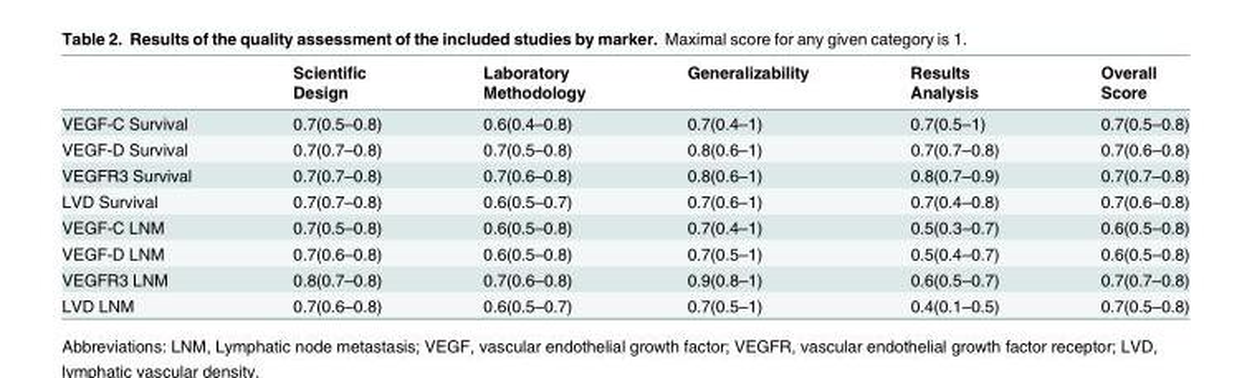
<table><thead><tr><td rowspan="2"></td><td rowspan="2">Scientific Design</td><td rowspan="2">Laboratory Methodology</td><td rowspan="2">Generalizability</td><td rowspan="2">Results Analysis</td><td rowspan="2">Overall Score</td></tr><tr></tr></thead><tbody><tr><td>VEGF-C Survival</td><td>0.7(0.5–0.8)</td><td>0.6(0.4–0.8)</td><td>0.7(0.4–1)</td><td>0.7(0.5–1)</td><td>0.7(0.5–0.8)</td></tr><tr><td>VEGF-D Survival</td><td>0.7(0.7–0.8)</td><td>0.7(0.5–0.8)</td><td>0.8(0.6–1)</td><td>0.7(0.7–0.8)</td><td>0.7(0.6–0.8)</td></tr><tr><td>VEGFR3 Survival</td><td>0.7(0.7–0.8)</td><td>0.7(0.6–0.8)</td><td>0.8(0.6–1)</td><td>0.8(0.7–0.9)</td><td>0.7(0.7–0.8)</td></tr><tr><td>LVD Survival</td><td>0.7(0.7–0.8)</td><td>0.6(0.5–0.7)</td><td>0.7(0.6–1)</td><td>0.7(0.4–0.8)</td><td>0.7(0.6–0.8)</td></tr><tr><td>VEGF-C LNM</td><td>0.7(0.5–0.8)</td><td>0.6(0.5–0.8)</td><td>0.7(0.4–1)</td><td>0.5(0.3–0.7)</td><td>0.6(0.5–0.8)</td></tr><tr><td>VEGF-D LNM</td><td>0.7(0.6–0.8)</td><td>0.6(0.5–0.8)</td><td>0.7(0.5–1)</td><td>0.5(0.4–0.7)</td><td>0.6(0.5–0.8)</td></tr><tr><td>VEGFR3 LNM</td><td>0.8(0.7–0.8)</td><td>0.7(0.6–0.8)</td><td>0.9(0.8–1)</td><td>0.6(0.5–0.7)</td><td>0.7(0.7–0.8)</td></tr><tr><td>LVD LNM</td><td>0.7(0.6–0.8)</td><td>0.6(0.5–0.7)</td><td>0.7(0.5–1)</td><td>0.4(0.1–0.5)</td><td>0.7(0.5–0.8)</td></tr></tbody></table>